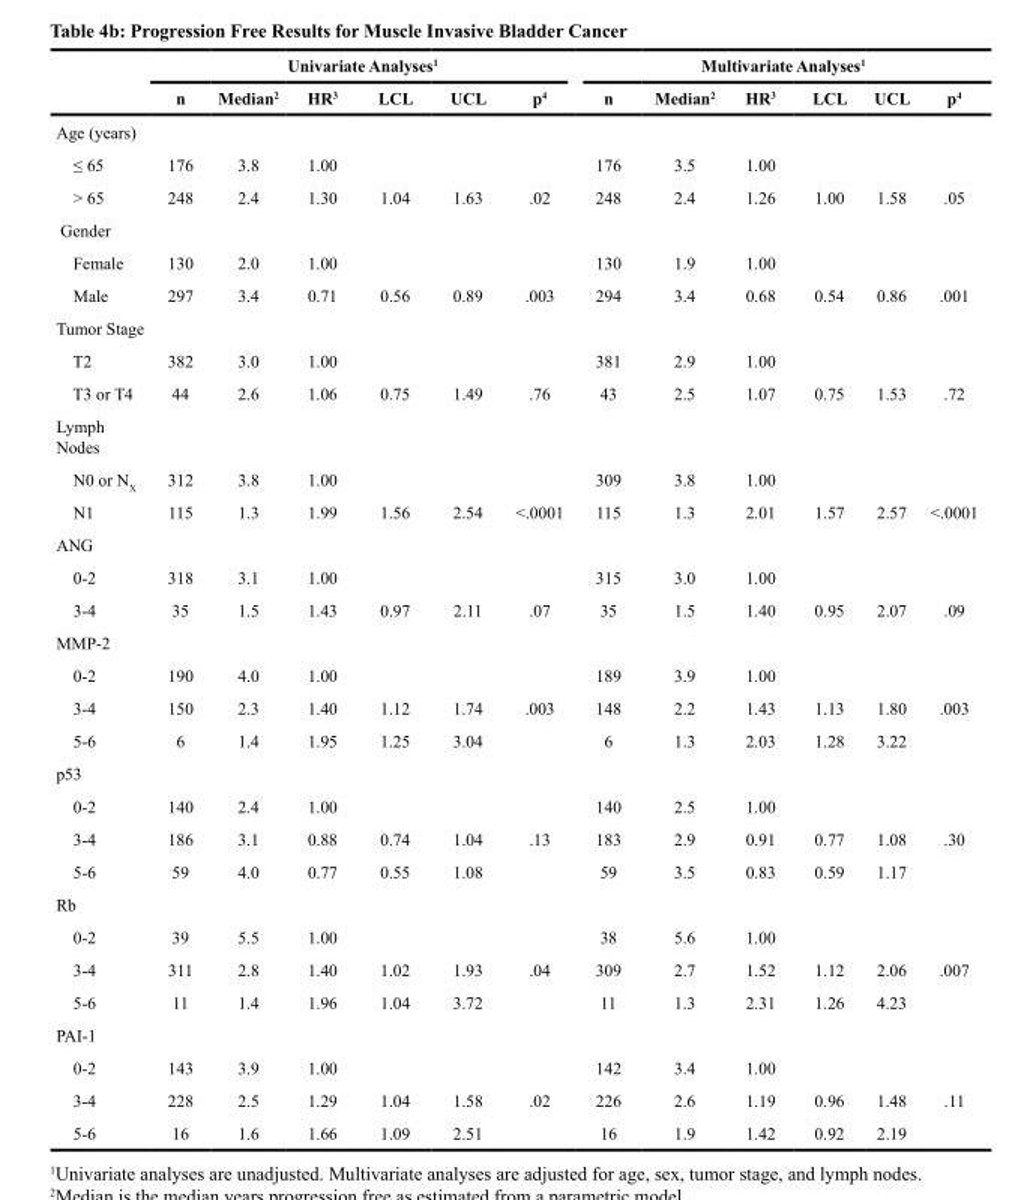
<table><thead><tr><td rowspan="2"></td><td colspan="6">Univariate Analyses<sup>1</sup></td><td colspan="6">Multivariate Analyses<sup>1</sup></td></tr><tr><td>n</td><td>Median<sup>2</sup></td><td>HR<sup>3</sup></td><td>LCL</td><td>UCL</td><td>p<sup>4</sup></td><td>n</td><td>Median<sup>2</sup></td><td>HR<sup>3</sup></td><td>LCL</td><td>UCL</td><td>p<sup>4</sup></td></tr></thead><tbody><tr><td colspan="13">Age (years)</td></tr><tr><td>≤ 65</td><td>176</td><td>3.8</td><td>1.00</td><td></td><td></td><td></td><td>176</td><td>3.5</td><td>1.00</td><td></td><td></td><td></td></tr><tr><td>&gt; 65</td><td>248</td><td>2.4</td><td>1.30</td><td>1.04</td><td>1.63</td><td>.02</td><td>248</td><td>2.4</td><td>1.26</td><td>1.00</td><td>1.58</td><td>.05</td></tr><tr><td colspan="13">Gender</td></tr><tr><td>Female</td><td>130</td><td>2.0</td><td>1.00</td><td></td><td></td><td></td><td>130</td><td>1.9</td><td>1.00</td><td></td><td></td><td></td></tr><tr><td>Male</td><td>297</td><td>3.4</td><td>0.71</td><td>0.56</td><td>0.89</td><td>.003</td><td>294</td><td>3.4</td><td>0.68</td><td>0.54</td><td>0.86</td><td>.001</td></tr><tr><td colspan="13">Tumor Stage</td></tr><tr><td>T2</td><td>382</td><td>3.0</td><td>1.00</td><td></td><td></td><td></td><td>381</td><td>2.9</td><td>1.00</td><td></td><td></td><td></td></tr><tr><td>T3 or T4</td><td>44</td><td>2.6</td><td>1.06</td><td>0.75</td><td>1.49</td><td>.76</td><td>43</td><td>2.5</td><td>1.07</td><td>0.75</td><td>1.53</td><td>.72</td></tr><tr><td colspan="13">Lymph Nodes</td></tr><tr><td>N0 or N<sub>X</sub></td><td>312</td><td>3.8</td><td>1.00</td><td></td><td></td><td></td><td>309</td><td>3.8</td><td>1.00</td><td></td><td></td><td></td></tr><tr><td>N1</td><td>115</td><td>1.3</td><td>1.99</td><td>1.56</td><td>2.54</td><td>&lt;.0001</td><td>115</td><td>1.3</td><td>2.01</td><td>1.57</td><td>2.57</td><td>&lt;.0001</td></tr><tr><td colspan="13">ANG</td></tr><tr><td>0-2</td><td>318</td><td>3.1</td><td>1.00</td><td></td><td></td><td></td><td>315</td><td>3.0</td><td>1.00</td><td></td><td></td><td></td></tr><tr><td>3-4</td><td>35</td><td>1.5</td><td>1.43</td><td>0.97</td><td>2.11</td><td>.07</td><td>35</td><td>1.5</td><td>1.40</td><td>0.95</td><td>2.07</td><td>.09</td></tr><tr><td colspan="13">MMP-2</td></tr><tr><td>0-2</td><td>190</td><td>4.0</td><td>1.00</td><td></td><td></td><td></td><td>189</td><td>3.9</td><td>1.00</td><td></td><td></td><td></td></tr><tr><td>3-4</td><td>150</td><td>2.3</td><td>1.40</td><td>1.12</td><td>1.74</td><td>.003</td><td>148</td><td>2.2</td><td>1.43</td><td>1.13</td><td>1.80</td><td>.003</td></tr><tr><td>5-6</td><td>6</td><td>1.4</td><td>1.95</td><td>1.25</td><td>3.04</td><td></td><td>6</td><td>1.3</td><td>2.03</td><td>1.28</td><td>3.22</td><td></td></tr><tr><td colspan="13">p53</td></tr><tr><td>0-2</td><td>140</td><td>2.4</td><td>1.00</td><td></td><td></td><td></td><td>140</td><td>2.5</td><td>1.00</td><td></td><td></td><td></td></tr><tr><td>3-4</td><td>186</td><td>3.1</td><td>0.88</td><td>0.74</td><td>1.04</td><td>.13</td><td>183</td><td>2.9</td><td>0.91</td><td>0.77</td><td>1.08</td><td>.30</td></tr><tr><td>5-6</td><td>59</td><td>4.0</td><td>0.77</td><td>0.55</td><td>1.08</td><td></td><td>59</td><td>3.5</td><td>0.83</td><td>0.59</td><td>1.17</td><td></td></tr><tr><td colspan="13">Rb</td></tr><tr><td>0-2</td><td>39</td><td>5.5</td><td>1.00</td><td></td><td></td><td></td><td>38</td><td>5.6</td><td>1.00</td><td></td><td></td><td></td></tr><tr><td>3-4</td><td>311</td><td>2.8</td><td>1.40</td><td>1.02</td><td>1.93</td><td>.04</td><td>309</td><td>2.7</td><td>1.52</td><td>1.12</td><td>2.06</td><td>.007</td></tr><tr><td>5-6</td><td>11</td><td>1.4</td><td>1.96</td><td>1.04</td><td>3.72</td><td></td><td>11</td><td>1.3</td><td>2.31</td><td>1.26</td><td>4.23</td><td></td></tr><tr><td colspan="13">PAI-1</td></tr><tr><td>0-2</td><td>143</td><td>3.9</td><td>1.00</td><td></td><td></td><td></td><td>142</td><td>3.4</td><td>1.00</td><td></td><td></td><td></td></tr><tr><td>3-4</td><td>228</td><td>2.5</td><td>1.29</td><td>1.04</td><td>1.58</td><td>.02</td><td>226</td><td>2.6</td><td>1.19</td><td>0.96</td><td>1.48</td><td>.11</td></tr><tr><td>5-6</td><td>16</td><td>1.6</td><td>1.66</td><td>1.09</td><td>2.51</td><td></td><td>16</td><td>1.9</td><td>1.42</td><td>0.92</td><td>2.19</td><td></td></tr></tbody></table>